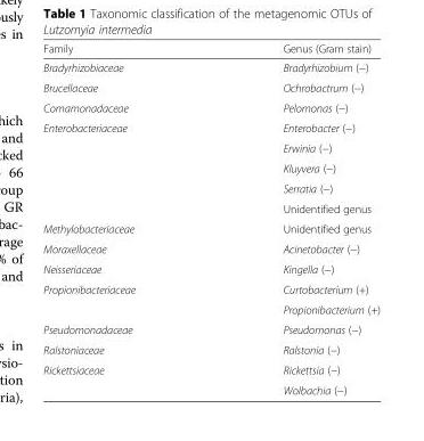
<table><thead><tr><td>Family</td><td>Genus (Gram stain)</td></tr></thead><tbody><tr><td>Bradyrhizobiaceae</td><td>Bradyrhizobium (−)</td></tr><tr><td>Brucellaceae</td><td>Ochrobactrum (−)</td></tr><tr><td>Comamonadaceae</td><td>Pelomonas (−)</td></tr><tr><td rowspan="5">Enterobacteriaceae</td><td>Enterobacter (−)</td></tr><tr><td>Erwinia (−)</td></tr><tr><td>Kluyvera (−)</td></tr><tr><td>Serratia (−)</td></tr><tr><td>Unidentified genus</td></tr><tr><td>Methylobacteriaceae</td><td>Unidentified genus</td></tr><tr><td>Moraxellaceae</td><td>Acinetobacter (−)</td></tr><tr><td>Neisseriaceae</td><td>Kingella (−)</td></tr><tr><td rowspan="2">Propionibacteriaceae</td><td>Curtobacterium (+)</td></tr><tr><td>Propionibacterium (+)</td></tr><tr><td>Pseudomonadaceae</td><td>Pseudomonas (−)</td></tr><tr><td>Ralstoniaceae</td><td>Ralstonia (−)</td></tr><tr><td rowspan="2">Rickettsiaceae</td><td>Rickettsia (−)</td></tr><tr><td>Wolbachia (−)</td></tr></tbody></table>